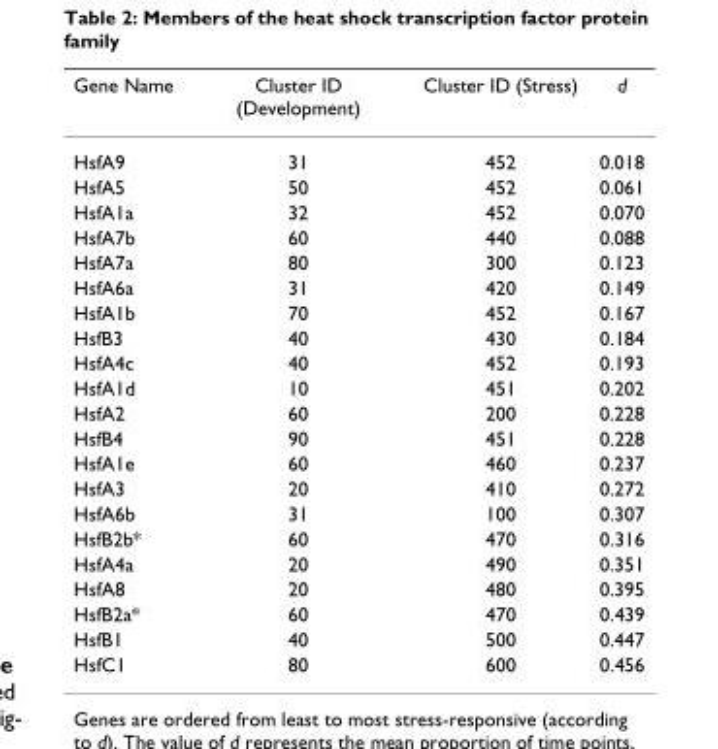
<table><thead><tr><td>Gene Name</td><td>Cluster ID (Development)</td><td>Cluster ID (Stress)</td><td>d</td></tr></thead><tbody><tr><td>HsfA9</td><td>31</td><td>452</td><td>0.018</td></tr><tr><td>HsfA5</td><td>50</td><td>452</td><td>0.061</td></tr><tr><td>HsfA1a</td><td>32</td><td>452</td><td>0.070</td></tr><tr><td>HsfA7b</td><td>60</td><td>440</td><td>0.088</td></tr><tr><td>HsfA7a</td><td>80</td><td>300</td><td>0.123</td></tr><tr><td>HsfA6a</td><td>31</td><td>420</td><td>0.149</td></tr><tr><td>HsfA1b</td><td>70</td><td>452</td><td>0.167</td></tr><tr><td>HsfB3</td><td>40</td><td>430</td><td>0.184</td></tr><tr><td>HsfA4c</td><td>40</td><td>452</td><td>0.193</td></tr><tr><td>HsfA1d</td><td>10</td><td>451</td><td>0.202</td></tr><tr><td>HsfA2</td><td>60</td><td>200</td><td>0.228</td></tr><tr><td>HsfB4</td><td>90</td><td>451</td><td>0.228</td></tr><tr><td>HsfA1e</td><td>60</td><td>460</td><td>0.237</td></tr><tr><td>HsfA3</td><td>20</td><td>410</td><td>0.272</td></tr><tr><td>HsfA6b</td><td>31</td><td>100</td><td>0.307</td></tr><tr><td>HsfB2b*</td><td>60</td><td>470</td><td>0.316</td></tr><tr><td>HsfA4a</td><td>20</td><td>490</td><td>0.351</td></tr><tr><td>HsfA8</td><td>20</td><td>480</td><td>0.395</td></tr><tr><td>HsfB2a*</td><td>60</td><td>470</td><td>0.439</td></tr><tr><td>HsfB1</td><td>40</td><td>500</td><td>0.447</td></tr><tr><td>HsfC1</td><td>80</td><td>600</td><td>0.456</td></tr></tbody></table>